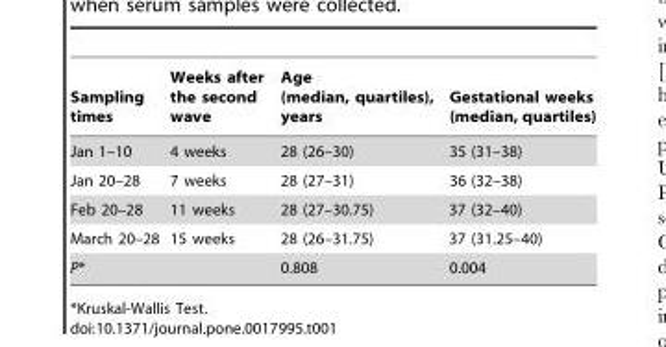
<table><thead><tr><td>Sampling times</td><td>Weeks after the second wave</td><td>Age (median, quartiles), years</td><td>Gestational weeks (median, quartiles)</td></tr></thead><tbody><tr><td>Jan 1–10</td><td>4 weeks</td><td>28 (26–30)</td><td>35 (31–38)</td></tr><tr><td>Jan 20–28</td><td>7 weeks</td><td>28 (27–31)</td><td>36 (32–38)</td></tr><tr><td>Feb 20–28</td><td>11 weeks</td><td>28 (27–30.75)</td><td>37 (32–40)</td></tr><tr><td>March 20–28</td><td>15 weeks</td><td>28 (26–31.75)</td><td>37 (31.25–40)</td></tr><tr><td>P*</td><td></td><td>0.808</td><td>0.004</td></tr></tbody></table>